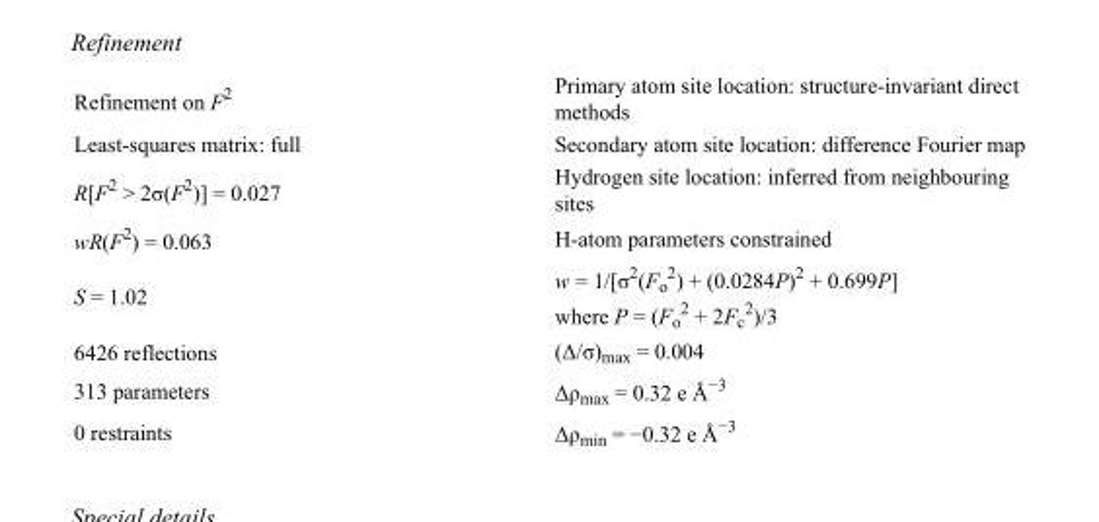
<table><tbody><tr><td>Refinement on F<sup>2</sup></td><td>Primary atom site location: structure-invariant direct methods</td></tr><tr><td>Least-squares matrix: full</td><td>Secondary atom site location: difference Fourier map</td></tr><tr><td>R[F<sup>2</sup> &gt; 2σ(F<sup>2</sup>)] = 0.027</td><td>Hydrogen site location: inferred from neighbouring sites</td></tr><tr><td>wR(F<sup>2</sup>) = 0.063</td><td>H-atom parameters constrained</td></tr><tr><td>S = 1.02</td><td>w = 1/[σ<sup>2</sup>(F<sub>o</sub> <sup>2</sup>) + (0.0284P)<sup>2</sup> + 0.699P] where P = (F<sub>o</sub> <sup>2</sup> + 2F<sub>c</sub> <sup>2</sup>)/3</td></tr><tr><td>6426 reflections</td><td>(Δ/σ)<sub>max</sub> = 0.004</td></tr><tr><td>313 parameters</td><td>Δρ<sub>max</sub> = 0.32 e Å<sup>−3</sup></td></tr><tr><td>0 restraints</td><td>Δρ<sub>min</sub> = −0.32 e Å<sup>−3</sup></td></tr></tbody></table>